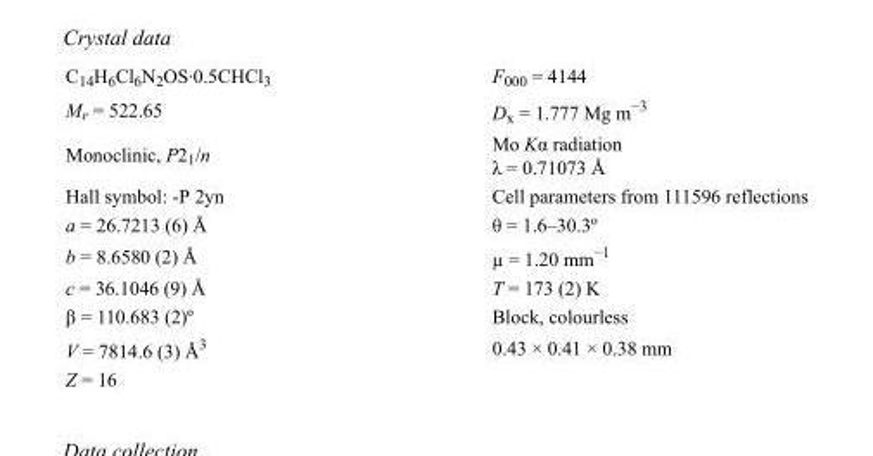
<table><tbody><tr><td>C<sub>14</sub>H<sub>6</sub>Cl<sub>6</sub>N<sub>2</sub>OS·0.5CHCl<sub>3</sub></td><td>F000 = 4144</td></tr><tr><td>M<sub>r</sub> = 522.65</td><td>D<sub>x</sub> = 1.777 Mg m<sup>−3</sup></td></tr><tr><td>Monoclinic, P2<sub>1</sub>/n</td><td>Mo Kα radiation λ = 0.71073 Å</td></tr><tr><td>Hall symbol: -P 2yn</td><td>Cell parameters from 111596 reflections</td></tr><tr><td>a = 26.7213 (6) Å</td><td>θ = 1.6–30.3º</td></tr><tr><td>b = 8.6580 (2) Å</td><td>µ = 1.20 mm<sup>−1</sup></td></tr><tr><td>c = 36.1046 (9) Å</td><td>T = 173 (2) K</td></tr><tr><td>β = 110.683 (2)º</td><td>Block, colourless</td></tr><tr><td>V = 7814.6 (3) Å<sup>3</sup></td><td>0.43 × 0.41 × 0.38 mm</td></tr><tr><td>Z = 16</td><td></td></tr></tbody></table>